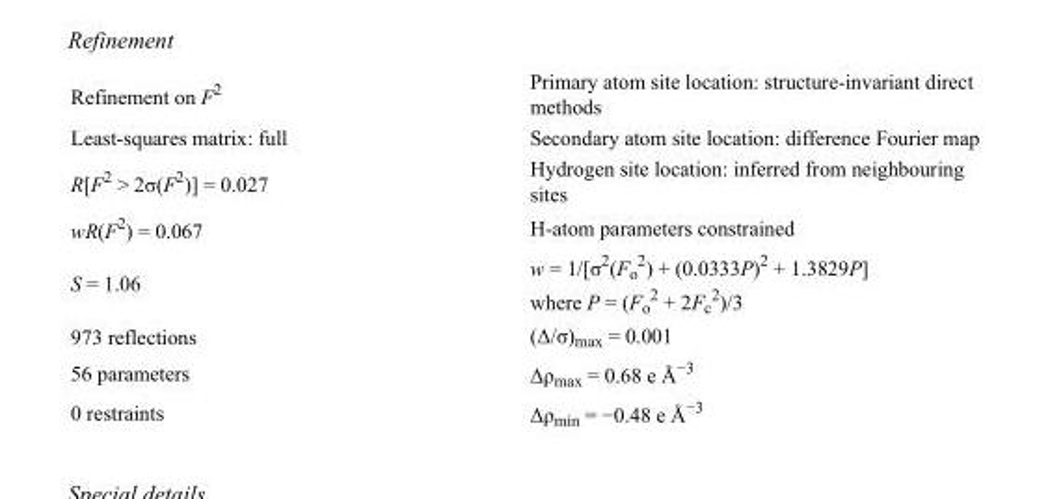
<table><tbody><tr><td>Refinement on F<sup>2</sup></td><td>Primary atom site location: structure-invariant direct methods</td></tr><tr><td>Least-squares matrix: full</td><td>Secondary atom site location: difference Fourier map</td></tr><tr><td>R[F<sup>2</sup> &gt; 2σ(F<sup>2</sup>)] = 0.027</td><td>Hydrogen site location: inferred from neighbouring sites</td></tr><tr><td>wR(F<sup>2</sup>) = 0.067</td><td>H-atom parameters constrained</td></tr><tr><td>S = 1.06</td><td>w = 1/[σ<sup>2</sup>(F<sub>o</sub> <sup>2</sup>) + (0.0333P)<sup>2</sup> + 1.3829P] where P = (F<sub>o</sub> <sup>2</sup> + 2F<sub>c</sub> <sup>2</sup>)/3</td></tr><tr><td>973 reflections</td><td>(Δ/σ)<sub>max</sub> = 0.001</td></tr><tr><td>56 parameters</td><td>Δρ<sub>max</sub> = 0.68 e Å<sup>−3</sup></td></tr><tr><td>0 restraints</td><td>Δρ<sub>min</sub> = −0.48 e Å<sup>−3</sup></td></tr></tbody></table>